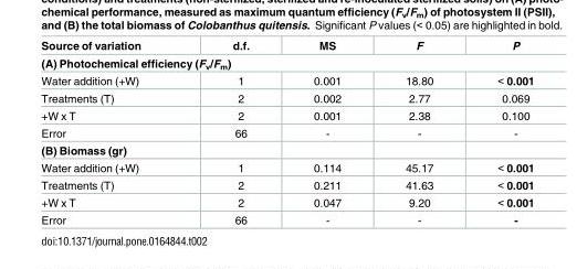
<table><thead><tr><td>Source of variation</td><td>d.f.</td><td>MS</td><td>F</td><td>P</td></tr></thead><tbody><tr><td colspan="5">(A) Photochemical efficiency (F<sub>v</sub>/F<sub>m</sub>)</td></tr><tr><td>Water addition (+W)</td><td>1</td><td>0.001</td><td>18.80</td><td>&lt; 0.001</td></tr><tr><td>Treatments (T)</td><td>2</td><td>0.002</td><td>2.77</td><td>0.069</td></tr><tr><td>+W x T</td><td>2</td><td>0.001</td><td>2.38</td><td>0.100</td></tr><tr><td>Error</td><td>66</td><td>-</td><td>-</td><td>-</td></tr><tr><td colspan="5">(B) Biomass (gr)</td></tr><tr><td>Water addition (+W)</td><td>1</td><td>0.114</td><td>45.17</td><td>&lt; 0.001</td></tr><tr><td>Treatments (T)</td><td>2</td><td>0.211</td><td>41.63</td><td>&lt; 0.001</td></tr><tr><td>+W x T</td><td>2</td><td>0.047</td><td>9.20</td><td>&lt; 0.001</td></tr><tr><td>Error</td><td>66</td><td>-</td><td>-</td><td>-</td></tr></tbody></table>